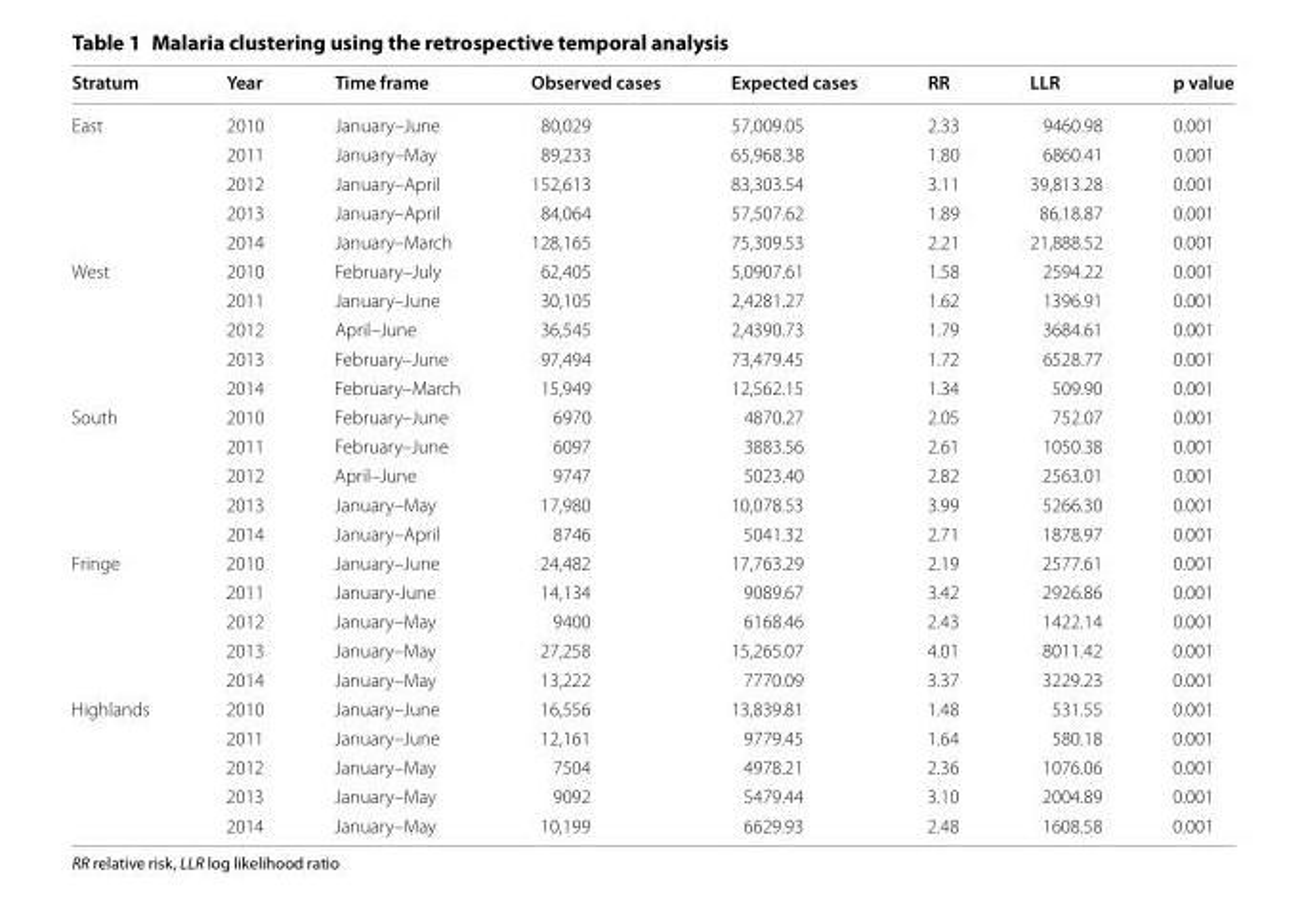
<table><thead><tr><td>Stratum</td><td>Year</td><td>Time frame</td><td>Observed cases</td><td>Expected cases</td><td>RR</td><td>LLR</td><td>p value</td></tr></thead><tbody><tr><td rowspan="5">East</td><td>2010</td><td>January–June</td><td>80,029</td><td>57,009.05</td><td>2.33</td><td>9460.98</td><td>0.001</td></tr><tr><td>2011</td><td>January–May</td><td>89,233</td><td>65,968.38</td><td>1.80</td><td>6860.41</td><td>0.001</td></tr><tr><td>2012</td><td>January–April</td><td>152,613</td><td>83,303.54</td><td>3.11</td><td>39,813.28</td><td>0.001</td></tr><tr><td>2013</td><td>January–April</td><td>84,064</td><td>57,507.62</td><td>1.89</td><td>86,18.87</td><td>0.001</td></tr><tr><td>2014</td><td>January–March</td><td>128,165</td><td>75,309.53</td><td>2.21</td><td>21,888.52</td><td>0.001</td></tr><tr><td rowspan="5">West</td><td>2010</td><td>February–July</td><td>62,405</td><td>5,0907.61</td><td>1.58</td><td>2594.22</td><td>0.001</td></tr><tr><td>2011</td><td>January–June</td><td>30,105</td><td>2,4281.27</td><td>1.62</td><td>1396.91</td><td>0.001</td></tr><tr><td>2012</td><td>April–June</td><td>36,545</td><td>2,4390.73</td><td>1.79</td><td>3684.61</td><td>0.001</td></tr><tr><td>2013</td><td>February–June</td><td>97,494</td><td>73,479.45</td><td>1.72</td><td>6528.77</td><td>0.001</td></tr><tr><td>2014</td><td>February–March</td><td>15,949</td><td>12,562.15</td><td>1.34</td><td>509.90</td><td>0.001</td></tr><tr><td rowspan="5">South</td><td>2010</td><td>February–June</td><td>6970</td><td>4870.27</td><td>2.05</td><td>752.07</td><td>0.001</td></tr><tr><td>2011</td><td>February–June</td><td>6097</td><td>3883.56</td><td>2.61</td><td>1050.38</td><td>0.001</td></tr><tr><td>2012</td><td>April–June</td><td>9747</td><td>5023.40</td><td>2.82</td><td>2563.01</td><td>0.001</td></tr><tr><td>2013</td><td>January–May</td><td>17,980</td><td>10,078.53</td><td>3.99</td><td>5266.30</td><td>0.001</td></tr><tr><td>2014</td><td>January–April</td><td>8746</td><td>5041.32</td><td>2.71</td><td>1878.97</td><td>0.001</td></tr><tr><td rowspan="5">Fringe</td><td>2010</td><td>January–June</td><td>24,482</td><td>17,763.29</td><td>2.19</td><td>2577.61</td><td>0.001</td></tr><tr><td>2011</td><td>January-June</td><td>14,134</td><td>9089.67</td><td>3.42</td><td>2926.86</td><td>0.001</td></tr><tr><td>2012</td><td>January–May</td><td>9400</td><td>6168.46</td><td>2.43</td><td>1422.14</td><td>0.001</td></tr><tr><td>2013</td><td>January–May</td><td>27,258</td><td>15,265.07</td><td>4.01</td><td>8011.42</td><td>0.001</td></tr><tr><td>2014</td><td>January–May</td><td>13,222</td><td>7770.09</td><td>3.37</td><td>3229.23</td><td>0.001</td></tr><tr><td rowspan="5">Highlands</td><td>2010</td><td>January–June</td><td>16,556</td><td>13,839.81</td><td>1.48</td><td>531.55</td><td>0.001</td></tr><tr><td>2011</td><td>January–June</td><td>12,161</td><td>9779.45</td><td>1.64</td><td>580.18</td><td>0.001</td></tr><tr><td>2012</td><td>January–May</td><td>7504</td><td>4978.21</td><td>2.36</td><td>1076.06</td><td>0.001</td></tr><tr><td>2013</td><td>January–May</td><td>9092</td><td>5479.44</td><td>3.10</td><td>2004.89</td><td>0.001</td></tr><tr><td>2014</td><td>January–May</td><td>10,199</td><td>6629.93</td><td>2.48</td><td>1608.58</td><td>0.001</td></tr></tbody></table>